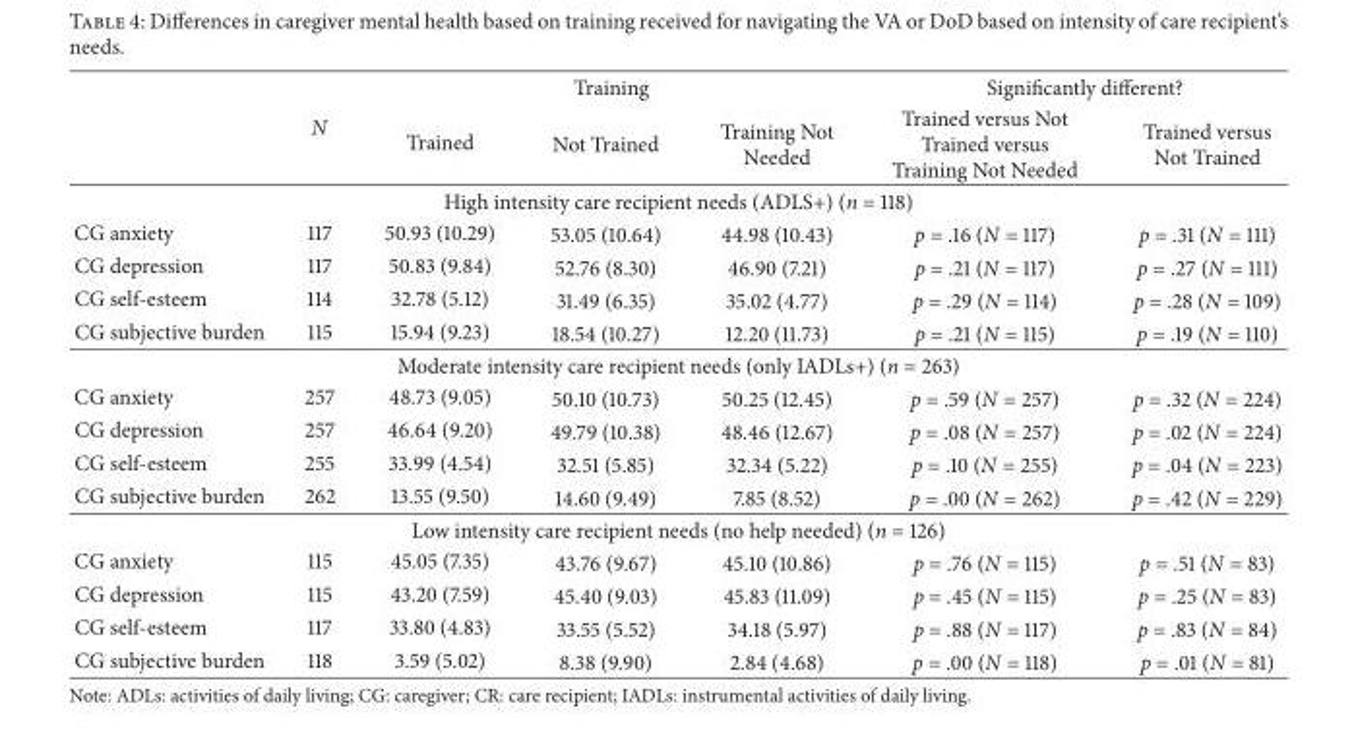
<table><thead><tr><td rowspan="2"></td><td rowspan="2">N</td><td colspan="3">Training</td><td colspan="2">Significantly different?</td></tr><tr><td>Trained</td><td>Not Trained</td><td>Training Not Needed</td><td>Trained versus Not Trained versus Training Not Needed</td><td>Trained versus Not Trained</td></tr></thead><tbody><tr><td colspan="7">High intensity care recipient needs (ADLS+) (n = 118)</td></tr><tr><td>CG anxiety</td><td>117</td><td>50.93 (10.29)</td><td>53.05 (10.64)</td><td>44.98 (10.43)</td><td>p = .16 (N = 117)</td><td>p = .31 (N = 111)</td></tr><tr><td>CG depression</td><td>117</td><td>50.83 (9.84)</td><td>52.76 (8.30)</td><td>46.90 (7.21)</td><td>p = .21 (N = 117)</td><td>p = .27 (N = 111)</td></tr><tr><td>CG self-esteem</td><td>114</td><td>32.78 (5.12)</td><td>31.49 (6.35)</td><td>35.02 (4.77)</td><td>p = .29 (N = 114)</td><td>p = .28 (N = 109)</td></tr><tr><td>CG subjective burden</td><td>115</td><td>15.94 (9.23)</td><td>18.54 (10.27)</td><td>12.20 (11.73)</td><td>p = .21 (N = 115)</td><td>p = .19 (N = 110)</td></tr><tr><td colspan="7">Moderate intensity care recipient needs (only IADLs+) (n = 263)</td></tr><tr><td>CG anxiety</td><td>257</td><td>48.73 (9.05)</td><td>50.10 (10.73)</td><td>50.25 (12.45)</td><td>p = .59 (N = 257)</td><td>p = .32 (N = 224)</td></tr><tr><td>CG depression</td><td>257</td><td>46.64 (9.20)</td><td>49.79 (10.38)</td><td>48.46 (12.67)</td><td>p = .08 (N = 257)</td><td>p = .02 (N = 224)</td></tr><tr><td>CG self-esteem</td><td>255</td><td>33.99 (4.54)</td><td>32.51 (5.85)</td><td>32.34 (5.22)</td><td>p = .10 (N = 255)</td><td>p = .04 (N = 223)</td></tr><tr><td>CG subjective burden</td><td>262</td><td>13.55 (9.50)</td><td>14.60 (9.49)</td><td>7.85 (8.52)</td><td>p = .00 (N = 262)</td><td>p = .42 (N = 229)</td></tr><tr><td colspan="7">Low intensity care recipient needs (no help needed) (n = 126)</td></tr><tr><td>CG anxiety</td><td>115</td><td>45.05 (7.35)</td><td>43.76 (9.67)</td><td>45.10 (10.86)</td><td>p = .76 (N = 115)</td><td>p = .51 (N = 83)</td></tr><tr><td>CG depression</td><td>115</td><td>43.20 (7.59)</td><td>45.40 (9.03)</td><td>45.83 (11.09)</td><td>p = .45 (N = 115)</td><td>p = .25 (N = 83)</td></tr><tr><td>CG self-esteem</td><td>117</td><td>33.80 (4.83)</td><td>33.55 (5.52)</td><td>34.18 (5.97)</td><td>p = .88 (N = 117)</td><td>p = .83 (N = 84)</td></tr><tr><td>CG subjective burden</td><td>118</td><td>3.59 (5.02)</td><td>8.38 (9.90)</td><td>2.84 (4.68)</td><td>p = .00 (N = 118)</td><td>p = .01 (N = 81)</td></tr></tbody></table>